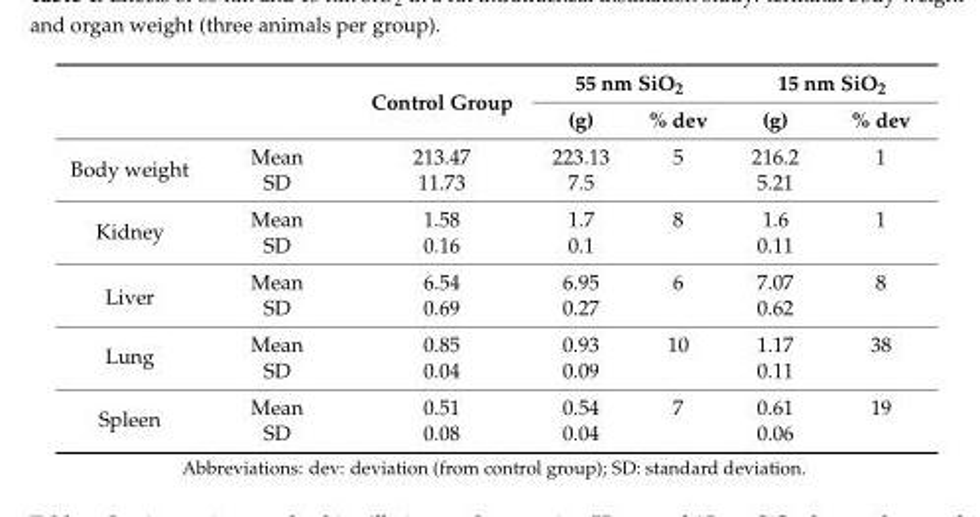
<table><thead><tr><td rowspan="2"></td><td rowspan="2"></td><td rowspan="2">Control Group</td><td colspan="2">55 nm SiO<sub>2</sub></td><td colspan="2">15 nm SiO<sub>2</sub></td></tr><tr><td>(g)</td><td>% dev</td><td>(g)</td><td>% dev</td></tr></thead><tbody><tr><td rowspan="2">Body weight</td><td>Mean</td><td>213.47</td><td>223.13</td><td>5</td><td>216.2</td><td>1</td></tr><tr><td>SD</td><td>11.73</td><td>7.5</td><td></td><td>5.21</td><td></td></tr><tr><td rowspan="2">Kidney</td><td>Mean</td><td>1.58</td><td>1.7</td><td>8</td><td>1.6</td><td>1</td></tr><tr><td>SD</td><td>0.16</td><td>0.1</td><td></td><td>0.11</td><td></td></tr><tr><td rowspan="2">Liver</td><td>Mean</td><td>6.54</td><td>6.95</td><td>6</td><td>7.07</td><td>8</td></tr><tr><td>SD</td><td>0.69</td><td>0.27</td><td></td><td>0.62</td><td></td></tr><tr><td rowspan="2">Lung</td><td>Mean</td><td>0.85</td><td>0.93</td><td>10</td><td>1.17</td><td>38</td></tr><tr><td>SD</td><td>0.04</td><td>0.09</td><td></td><td>0.11</td><td></td></tr><tr><td rowspan="2">Spleen</td><td>Mean</td><td>0.51</td><td>0.54</td><td>7</td><td>0.61</td><td>19</td></tr><tr><td>SD</td><td>0.08</td><td>0.04</td><td></td><td>0.06</td><td></td></tr></tbody></table>